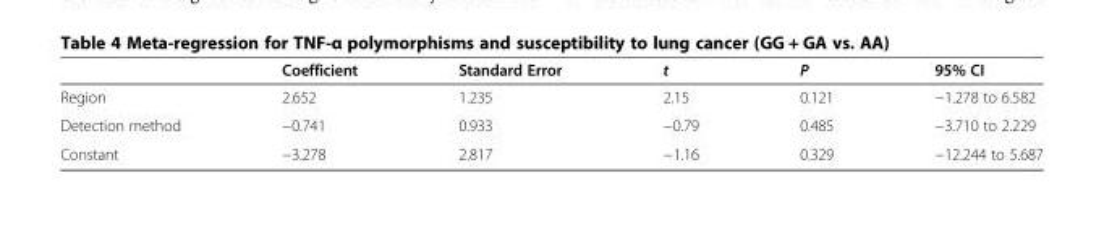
<table><thead><tr><td></td><td>Coefficient</td><td>Standard Error</td><td>t</td><td>P</td><td>95% CI</td></tr></thead><tbody><tr><td>Region</td><td>2.652</td><td>1.235</td><td>2.15</td><td>0.121</td><td>−1.278 to 6.582</td></tr><tr><td>Detection method</td><td>−0.741</td><td>0.933</td><td>−0.79</td><td>0.485</td><td>−3.710 to 2.229</td></tr><tr><td>Constant</td><td>−3.278</td><td>2.817</td><td>−1.16</td><td>0.329</td><td>−12.244 to 5.687</td></tr></tbody></table>